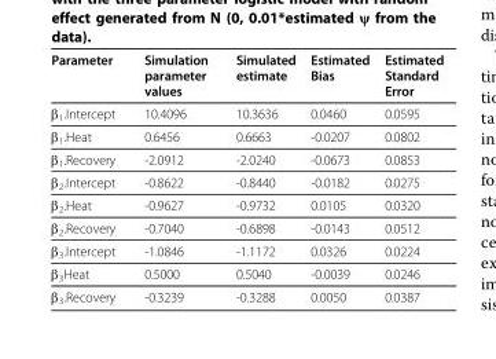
<table><thead><tr><td>Parameter</td><td>Simulation parameter values</td><td>Simulated estimate</td><td>Estimated Bias</td><td>Estimated Standard Error</td></tr></thead><tbody><tr><td>β<sub>1</sub>.Intercept</td><td>10.4096</td><td>10.3636</td><td>0.0460</td><td>0.0595</td></tr><tr><td>β<sub>1</sub>.Heat</td><td>0.6456</td><td>0.6663</td><td>-0.0207</td><td>0.0802</td></tr><tr><td>β<sub>1</sub>.Recovery</td><td>-2.0912</td><td>-2.0240</td><td>-0.0673</td><td>0.0853</td></tr><tr><td>β<sub>2</sub>.Intercept</td><td>-0.8622</td><td>-0.8440</td><td>-0.0182</td><td>0.0275</td></tr><tr><td>β<sub>2</sub>.Heat</td><td>-0.9627</td><td>-0.9732</td><td>0.0105</td><td>0.0320</td></tr><tr><td>β<sub>2</sub>.Recovery</td><td>-0.7040</td><td>-0.6898</td><td>-0.0143</td><td>0.0512</td></tr><tr><td>β<sub>3</sub>.Intercept</td><td>-1.0846</td><td>-1.1172</td><td>0.0326</td><td>0.0224</td></tr><tr><td>β<sub>3</sub>Heat</td><td>0.5000</td><td>0.5040</td><td>-0.0039</td><td>0.0246</td></tr><tr><td>β<sub>3</sub>.Recovery</td><td>-0.3239</td><td>-0.3288</td><td>0.0050</td><td>0.0387</td></tr></tbody></table>